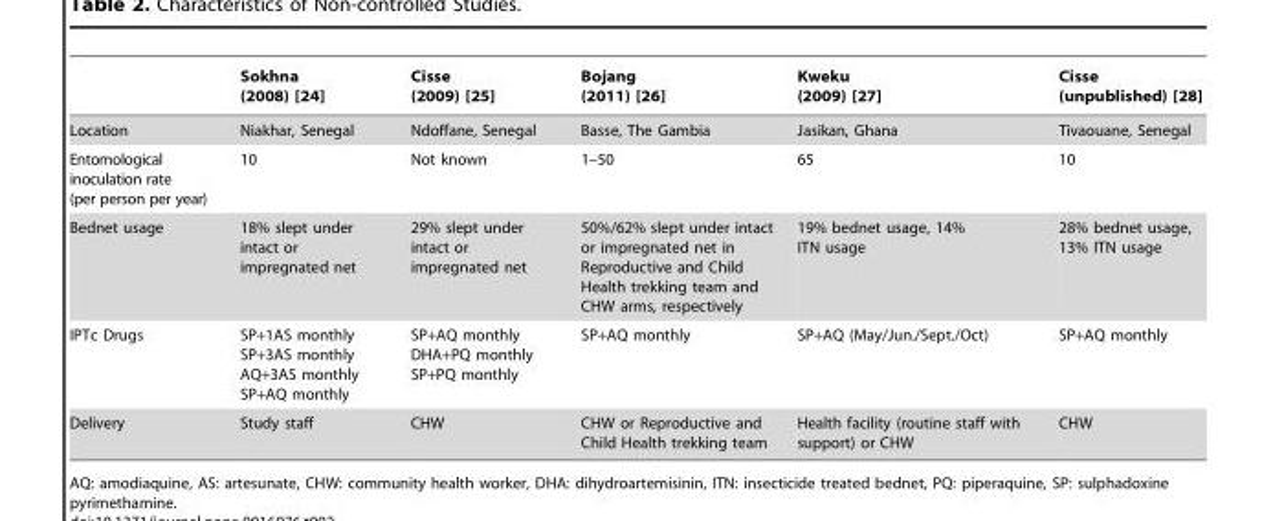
<table><thead><tr><td></td><td>Sokhna (2008) [24]</td><td>Cisse (2009) [25]</td><td>Bojang (2011) [26]</td><td>Kweku (2009) [27]</td><td>Cisse (unpublished) [28]</td></tr></thead><tbody><tr><td>Location</td><td>Niakhar, Senegal</td><td>Ndoffane, Senegal</td><td>Basse, The Gambia</td><td>Jasikan, Ghana</td><td>Tivaouane, Senegal</td></tr><tr><td>Entomological inoculation rate (per person per year)</td><td>10</td><td>Not known</td><td>1–50</td><td>65</td><td>10</td></tr><tr><td>Bednet usage</td><td>18% slept under intact or impregnated net</td><td>29% slept under intact or impregnated net</td><td>50%/62% slept under intact or impregnated net in Reproductive and Child Health trekking team and CHW arms, respectively</td><td>19% bednet usage, 14% ITN usage</td><td>28% bednet usage, 13% ITN usage</td></tr><tr><td>IPTc Drugs</td><td>SP+1AS monthly SP+3AS monthly AQ+3AS monthly SP+AQ monthly</td><td>SP+AQ monthly DHA+PQ monthly SP+PQ monthly</td><td>SP+AQ monthly</td><td>SP+AQ (May/Jun./Sept./Oct)</td><td>SP+AQ monthly</td></tr><tr><td>Delivery</td><td>Study staff</td><td>CHW</td><td>CHW or Reproductive and Child Health trekking team</td><td>Health facility (routine staff with support) or CHW</td><td>CHW</td></tr></tbody></table>